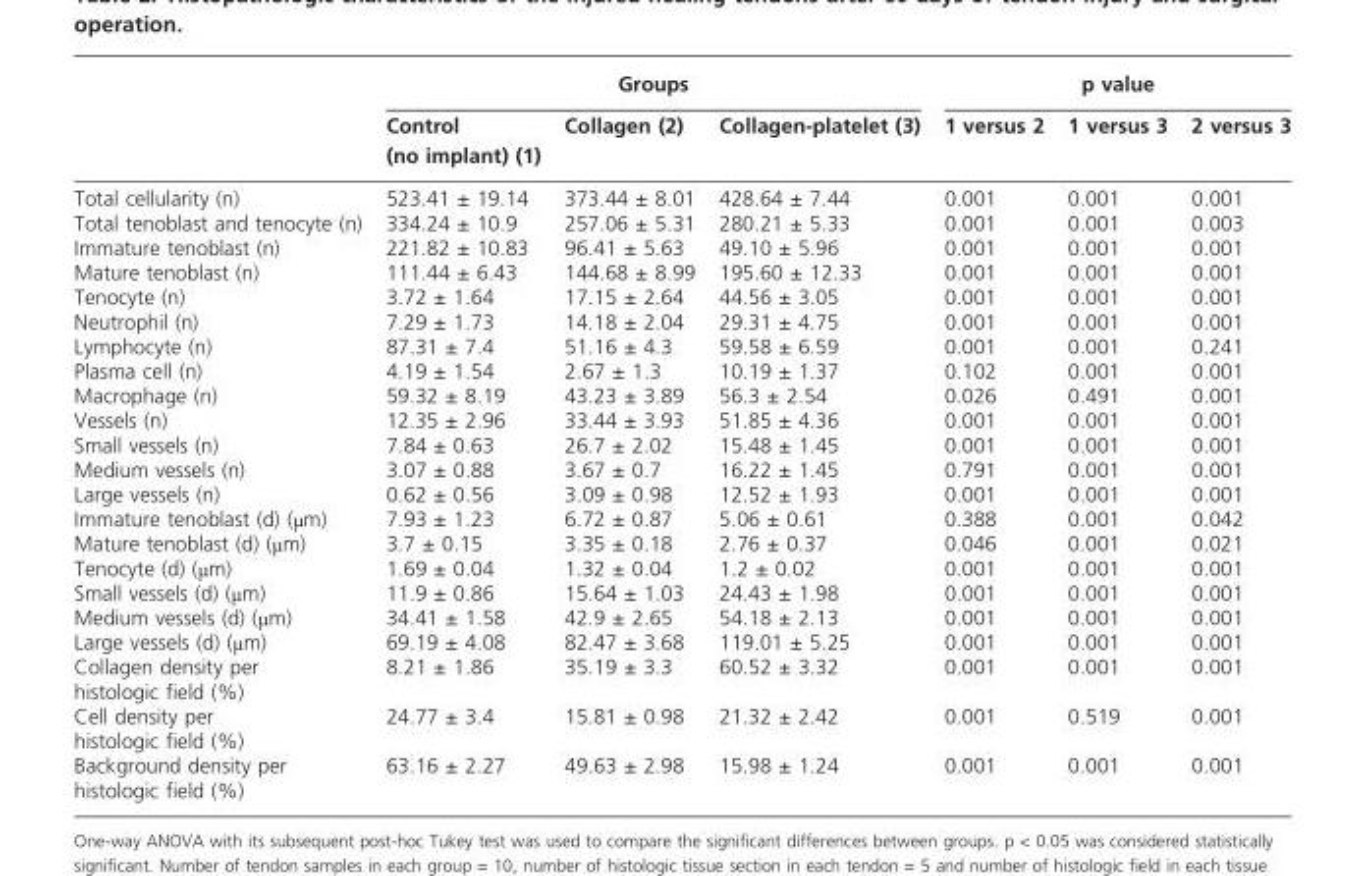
<table><thead><tr><td rowspan="2"></td><td colspan="3">Groups</td><td colspan="3">p value</td></tr><tr><td>Control (no implant) (1)</td><td>Collagen (2)</td><td>Collagen-platelet (3)</td><td>1 versus 2</td><td>1 versus 3</td><td>2 versus 3</td></tr></thead><tbody><tr><td>Total cellularity (n)</td><td>523.41 ± 19.14</td><td>373.44 ± 8.01</td><td>428.64 ± 7.44</td><td>0.001</td><td>0.001</td><td>0.001</td></tr><tr><td>Total tenoblast and tenocyte (n)</td><td>334.24 ± 10.9</td><td>257.06 ± 5.31</td><td>280.21 ± 5.33</td><td>0.001</td><td>0.001</td><td>0.003</td></tr><tr><td>Immature tenoblast (n)</td><td>221.82 ± 10.83</td><td>96.41 ± 5.63</td><td>49.10 ± 5.96</td><td>0.001</td><td>0.001</td><td>0.001</td></tr><tr><td>Mature tenoblast (n)</td><td>111.44 ± 6.43</td><td>144.68 ± 8.99</td><td>195.60 ± 12.33</td><td>0.001</td><td>0.001</td><td>0.001</td></tr><tr><td>Tenocyte (n)</td><td>3.72 ± 1.64</td><td>17.15 ± 2.64</td><td>44.56 ± 3.05</td><td>0.001</td><td>0.001</td><td>0.001</td></tr><tr><td>Neutrophil (n)</td><td>7.29 ± 1.73</td><td>14.18 ± 2.04</td><td>29.31 ± 4.75</td><td>0.001</td><td>0.001</td><td>0.001</td></tr><tr><td>Lymphocyte (n)</td><td>87.31 ± 7.4</td><td>51.16 ± 4.3</td><td>59.58 ± 6.59</td><td>0.001</td><td>0.001</td><td>0.241</td></tr><tr><td>Plasma cell (n)</td><td>4.19 ± 1.54</td><td>2.67 ± 1.3</td><td>10.19 ± 1.37</td><td>0.102</td><td>0.001</td><td>0.001</td></tr><tr><td>Macrophage (n)</td><td>59.32 ± 8.19</td><td>43.23 ± 3.89</td><td>56.3 ± 2.54</td><td>0.026</td><td>0.491</td><td>0.001</td></tr><tr><td>Vessels (n)</td><td>12.35 ± 2.96</td><td>33.44 ± 3.93</td><td>51.85 ± 4.36</td><td>0.001</td><td>0.001</td><td>0.001</td></tr><tr><td>Small vessels (n)</td><td>7.84 ± 0.63</td><td>26.7 ± 2.02</td><td>15.48 ± 1.45</td><td>0.001</td><td>0.001</td><td>0.001</td></tr><tr><td>Medium vessels (n)</td><td>3.07 ± 0.88</td><td>3.67 ± 0.7</td><td>16.22 ± 1.45</td><td>0.791</td><td>0.001</td><td>0.001</td></tr><tr><td>Large vessels (n)</td><td>0.62 ± 0.56</td><td>3.09 ± 0.98</td><td>12.52 ± 1.93</td><td>0.001</td><td>0.001</td><td>0.001</td></tr><tr><td>Immature tenoblast (d) (µm)</td><td>7.93 ± 1.23</td><td>6.72 ± 0.87</td><td>5.06 ± 0.61</td><td>0.388</td><td>0.001</td><td>0.042</td></tr><tr><td>Mature tenoblast (d) (µm)</td><td>3.7 ± 0.15</td><td>3.35 ± 0.18</td><td>2.76 ± 0.37</td><td>0.046</td><td>0.001</td><td>0.021</td></tr><tr><td>Tenocyte (d) (µm)</td><td>1.69 ± 0.04</td><td>1.32 ± 0.04</td><td>1.2 ± 0.02</td><td>0.001</td><td>0.001</td><td>0.001</td></tr><tr><td>Small vessels (d) (µm)</td><td>11.9 ± 0.86</td><td>15.64 ± 1.03</td><td>24.43 ± 1.98</td><td>0.001</td><td>0.001</td><td>0.001</td></tr><tr><td>Medium vessels (d) (µm)</td><td>34.41 ± 1.58</td><td>42.9 ± 2.65</td><td>54.18 ± 2.13</td><td>0.001</td><td>0.001</td><td>0.001</td></tr><tr><td>Large vessels (d) (µm)</td><td>69.19 ± 4.08</td><td>82.47 ± 3.68</td><td>119.01 ± 5.25</td><td>0.001</td><td>0.001</td><td>0.001</td></tr><tr><td>Collagen density per histologic field (%)</td><td>8.21 ± 1.86</td><td>35.19 ± 3.3</td><td>60.52 ± 3.32</td><td>0.001</td><td>0.001</td><td>0.001</td></tr><tr><td>Cell density per histologic field (%)</td><td>24.77 ± 3.4</td><td>15.81 ± 0.98</td><td>21.32 ± 2.42</td><td>0.001</td><td>0.519</td><td>0.001</td></tr><tr><td>Background density per histologic field (%)</td><td>63.16 ± 2.27</td><td>49.63 ± 2.98</td><td>15.98 ± 1.24</td><td>0.001</td><td>0.001</td><td>0.001</td></tr></tbody></table>